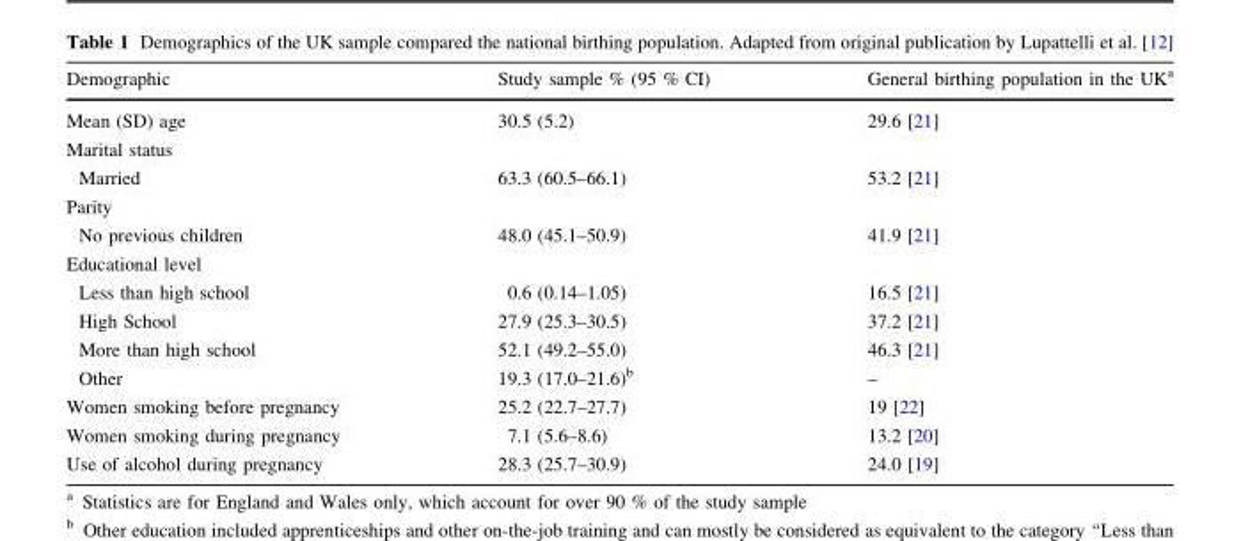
<table><thead><tr><td>Demographic</td><td>Study sample % (95 % CI)</td><td>General birthing population in the UK<sup>a</sup></td></tr></thead><tbody><tr><td>Mean (SD) age</td><td>30.5 (5.2)</td><td>29.6 [21]</td></tr><tr><td colspan="3">Marital status</td></tr><tr><td>Married</td><td>63.3 (60.5–66.1)</td><td>53.2 [21]</td></tr><tr><td colspan="3">Parity</td></tr><tr><td>No previous children</td><td>48.0 (45.1–50.9)</td><td>41.9 [21]</td></tr><tr><td colspan="3">Educational level</td></tr><tr><td>Less than high school</td><td>0.6 (0.14–1.05)</td><td>16.5 [21]</td></tr><tr><td>High School</td><td>27.9 (25.3–30.5)</td><td>37.2 [21]</td></tr><tr><td>More than high school</td><td>52.1 (49.2–55.0)</td><td>46.3 [21]</td></tr><tr><td>Other</td><td>19.3 (17.0–21.6)<sup>b</sup></td><td>–</td></tr><tr><td>Women smoking before pregnancy</td><td>25.2 (22.7–27.7)</td><td>19 [22]</td></tr><tr><td>Women smoking during pregnancy</td><td>7.1 (5.6–8.6)</td><td>13.2 [20]</td></tr><tr><td>Use of alcohol during pregnancy</td><td>28.3 (25.7–30.9)</td><td>24.0 [19]</td></tr></tbody></table>